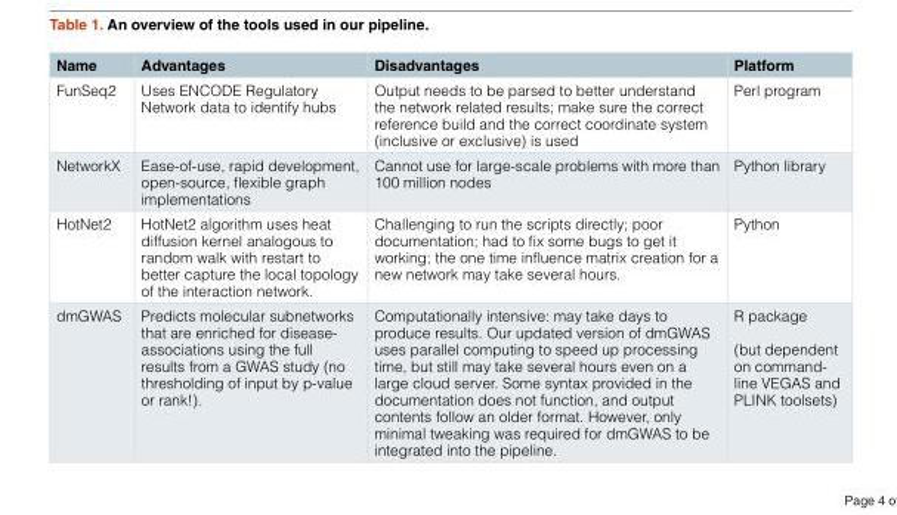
<table><thead><tr><td>Name</td><td>Advantages</td><td>Disadvantages</td><td>Platform</td></tr></thead><tbody><tr><td>FunSeq2</td><td>Uses ENCODE Regulatory Network data to identify hubs</td><td>Output needs to be parsed to better understand the network related results; make sure the correct reference build and the correct coordinate system (inclusive or exclusive) is used</td><td>Perl program</td></tr><tr><td>NetworkX</td><td>Ease-of-use, rapid development, open-source, flexible graph implementations</td><td>Cannot use for large-scale problems with more than 100 million nodes</td><td>Python library</td></tr><tr><td>HotNet2</td><td>HotNet2 algorithm uses heat diffusion kernel analogous to random walk with restart to better capture the local topology of the interaction network.</td><td>Challenging to run the scripts directly; poor documentation; had to fix some bugs to get it working; the one time influence matrix creation for a new network may take several hours.</td><td>Python</td></tr><tr><td>dmGWAS</td><td>Predicts molecular subnetworks that are enriched for disease- associations using the full results from a GWAS study (no thresholding of input by p-value or rank!).</td><td>Computationally intensive: may take days to produce results. Our updated version of dmGWAS uses parallel computing to speed up processing time, but still may take several hours even on a large cloud server. Some syntax provided in the documentation does not function, and output contents follow an older format. However, only minimal tweaking was required for dmGWAS to be integrated into the pipeline.</td><td>R package (but dependent on command- line VEGAS and PLINK toolsets)</td></tr></tbody></table>